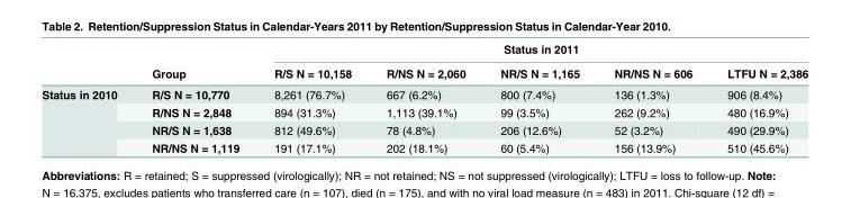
<table><thead><tr><td rowspan="2"></td><td rowspan="2">Group</td><td colspan="5">Status in 2011</td></tr><tr><td>R/S N = 10,158</td><td>R/NS N = 2,060</td><td>NR/S N = 1,165</td><td>NR/NS N = 606</td><td>LTFU N = 2,386</td></tr></thead><tbody><tr><td rowspan="4">Status in 2010</td><td>R/S N = 10,770</td><td>8,261 (76.7%)</td><td>667 (6.2%)</td><td>800 (7.4%)</td><td>136 (1.3%)</td><td>906 (8.4%)</td></tr><tr><td>R/NS N = 2,848</td><td>894 (31.3%)</td><td>1,113 (39.1%)</td><td>99 (3.5%)</td><td>262 (9.2%)</td><td>480 (16.9%)</td></tr><tr><td>NR/S N = 1,638</td><td>812 (49.6%)</td><td>78 (4.8%)</td><td>206 (12.6%)</td><td>52 (3.2%)</td><td>490 (29.9%)</td></tr><tr><td>NR/NS N = 1,119</td><td>191 (17.1%)</td><td>202 (18.1%)</td><td>60 (5.4%)</td><td>156 (13.9%)</td><td>510 (45.6%)</td></tr></tbody></table>